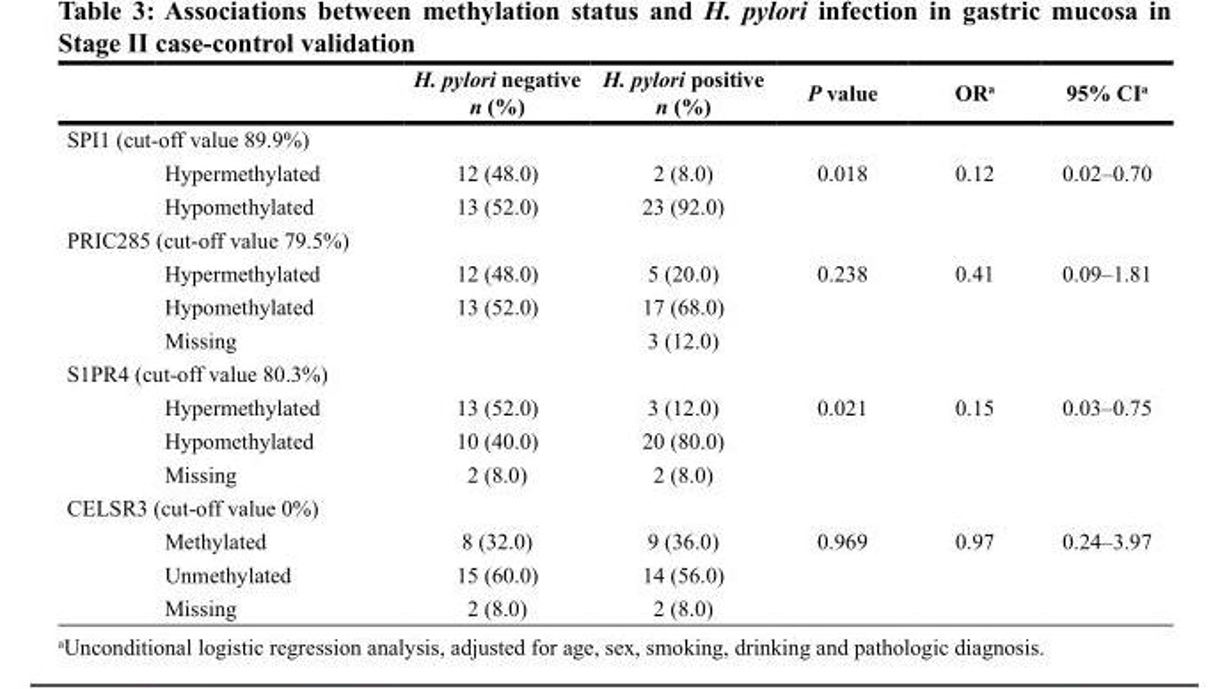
<table><thead><tr><td></td><td>H. pylori negative n (%)</td><td>H. pylori positive n (%)</td><td>P value</td><td>OR<sup>a</sup></td><td>95% CI<sup>a</sup></td></tr></thead><tbody><tr><td colspan="6">SPI1 (cut-off value 89.9%)</td></tr><tr><td>Hypermethylated</td><td>12 (48.0)</td><td>2 (8.0)</td><td>0.018</td><td>0.12</td><td>0.02–0.70</td></tr><tr><td>Hypomethylated</td><td>13 (52.0)</td><td>23 (92.0)</td><td></td><td></td><td></td></tr><tr><td colspan="6">PRIC285 (cut-off value 79.5%)</td></tr><tr><td>Hypermethylated</td><td>12 (48.0)</td><td>5 (20.0)</td><td>0.238</td><td>0.41</td><td>0.09–1.81</td></tr><tr><td>Hypomethylated</td><td>13 (52.0)</td><td>17 (68.0)</td><td></td><td></td><td></td></tr><tr><td>Missing</td><td></td><td>3 (12.0)</td><td></td><td></td><td></td></tr><tr><td colspan="6">S1PR4 (cut-off value 80.3%)</td></tr><tr><td>Hypermethylated</td><td>13 (52.0)</td><td>3 (12.0)</td><td>0.021</td><td>0.15</td><td>0.03–0.75</td></tr><tr><td>Hypomethylated</td><td>10 (40.0)</td><td>20 (80.0)</td><td></td><td></td><td></td></tr><tr><td>Missing</td><td>2 (8.0)</td><td>2 (8.0)</td><td></td><td></td><td></td></tr><tr><td colspan="6">CELSR3 (cut-off value 0%)</td></tr><tr><td>Methylated</td><td>8 (32.0)</td><td>9 (36.0)</td><td>0.969</td><td>0.97</td><td>0.24–3.97</td></tr><tr><td>Unmethylated</td><td>15 (60.0)</td><td>14 (56.0)</td><td></td><td></td><td></td></tr><tr><td>Missing</td><td>2 (8.0)</td><td>2 (8.0)</td><td></td><td></td><td></td></tr></tbody></table>